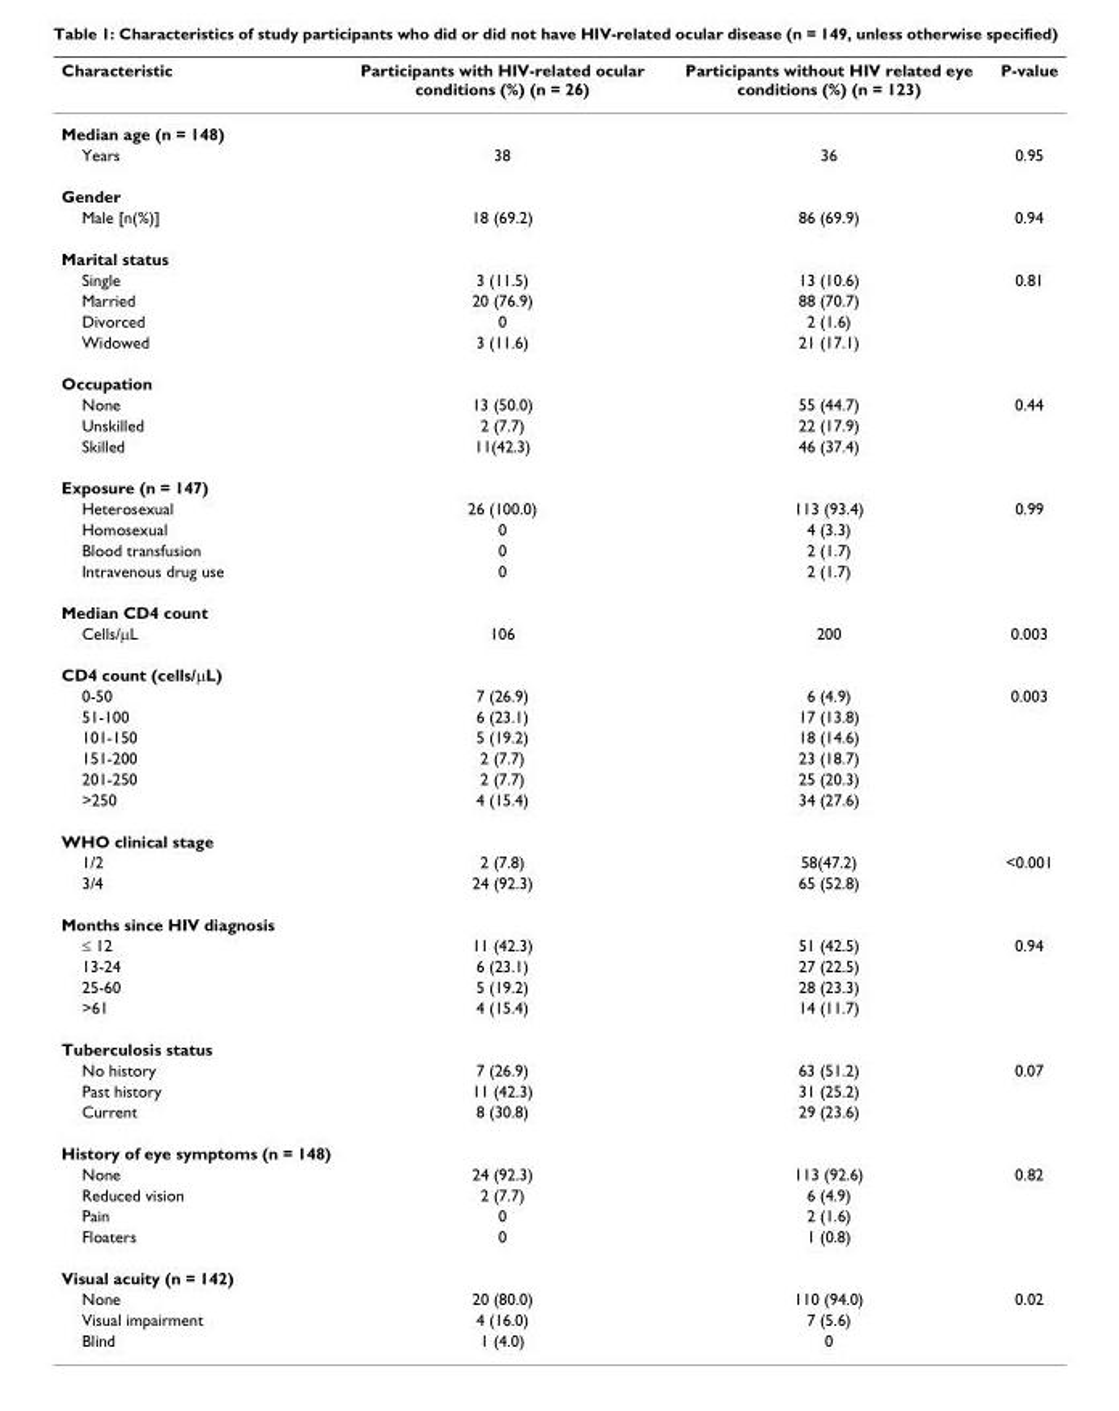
<table><thead><tr><td>Characteristic</td><td>Participants with HIV-related ocular conditions (%) (n = 26)</td><td>Participants without HIV related eye conditions (%) (n = 123)</td><td>P-value</td></tr></thead><tbody><tr><td colspan="4">Median age (n = 148)</td></tr><tr><td>Years</td><td>38</td><td>36</td><td>0.95</td></tr><tr><td colspan="4">Gender</td></tr><tr><td>Male [n(%)]</td><td>18 (69.2)</td><td>86 (69.9)</td><td>0.94</td></tr><tr><td colspan="4">Marital status</td></tr><tr><td>Single</td><td>3 (11.5)</td><td>13 (10.6)</td><td>0.81</td></tr><tr><td>Married</td><td>20 (76.9)</td><td>88 (70.7)</td><td></td></tr><tr><td>Divorced</td><td>0</td><td>2 (1.6)</td><td></td></tr><tr><td>Widowed</td><td>3 (11.6)</td><td>21 (17.1)</td><td></td></tr><tr><td colspan="4">Occupation</td></tr><tr><td>None</td><td>13 (50.0)</td><td>55 (44.7)</td><td>0.44</td></tr><tr><td>Unskilled</td><td>2 (7.7)</td><td>22 (17.9)</td><td></td></tr><tr><td>Skilled</td><td>11(42.3)</td><td>46 (37.4)</td><td></td></tr><tr><td colspan="4">Exposure (n = 147)</td></tr><tr><td>Heterosexual</td><td>26 (100.0)</td><td>113 (93.4)</td><td>0.99</td></tr><tr><td>Homosexual</td><td>0</td><td>4 (3.3)</td><td></td></tr><tr><td>Blood transfusion</td><td>0</td><td>2 (1.7)</td><td></td></tr><tr><td>Intravenous drug use</td><td>0</td><td>2 (1.7)</td><td></td></tr><tr><td colspan="4">Median CD4 count</td></tr><tr><td>Cells/μL</td><td>106</td><td>200</td><td>0.003</td></tr><tr><td colspan="4">CD4 count (cells/μL)</td></tr><tr><td>0-50</td><td>7 (26.9)</td><td>6 (4.9)</td><td>0.003</td></tr><tr><td>51-100</td><td>6 (23.1)</td><td>17 (13.8)</td><td></td></tr><tr><td>101-150</td><td>5 (19.2)</td><td>18 (14.6)</td><td></td></tr><tr><td>151-200</td><td>2 (7.7)</td><td>23 (18.7)</td><td></td></tr><tr><td>201-250</td><td>2 (7.7)</td><td>25 (20.3)</td><td></td></tr><tr><td>&gt;250</td><td>4 (15.4)</td><td>34 (27.6)</td><td></td></tr><tr><td colspan="4">WHO clinical stage</td></tr><tr><td>1/2</td><td>2 (7.8)</td><td>58(47.2)</td><td>&lt;0.001</td></tr><tr><td>3/4</td><td>24 (92.3)</td><td>65 (52.8)</td><td></td></tr><tr><td colspan="4">Months since HIV diagnosis</td></tr><tr><td>≤ 12</td><td>11 (42.3)</td><td>51 (42.5)</td><td>0.94</td></tr><tr><td>13-24</td><td>6 (23.1)</td><td>27 (22.5)</td><td></td></tr><tr><td>25-60</td><td>5 (19.2)</td><td>28 (23.3)</td><td></td></tr><tr><td>&gt;61</td><td>4 (15.4)</td><td>14 (11.7)</td><td></td></tr><tr><td colspan="4">Tuberculosis status</td></tr><tr><td>No history</td><td>7 (26.9)</td><td>63 (51.2)</td><td>0.07</td></tr><tr><td>Past history</td><td>11 (42.3)</td><td>31 (25.2)</td><td></td></tr><tr><td>Current</td><td>8 (30.8)</td><td>29 (23.6)</td><td></td></tr><tr><td colspan="4">History of eye symptoms (n = 148)</td></tr><tr><td>None</td><td>24 (92.3)</td><td>113 (92.6)</td><td>0.82</td></tr><tr><td>Reduced vision</td><td>2 (7.7)</td><td>6 (4.9)</td><td></td></tr><tr><td>Pain</td><td>0</td><td>2 (1.6)</td><td></td></tr><tr><td>Floaters</td><td>0</td><td>1 (0.8)</td><td></td></tr><tr><td colspan="4">Visual acuity (n = 142)</td></tr><tr><td>None</td><td>20 (80.0)</td><td>110 (94.0)</td><td>0.02</td></tr><tr><td>Visual impairment</td><td>4 (16.0)</td><td>7 (5.6)</td><td></td></tr><tr><td>Blind</td><td>1 (4.0)</td><td>0</td><td></td></tr></tbody></table>